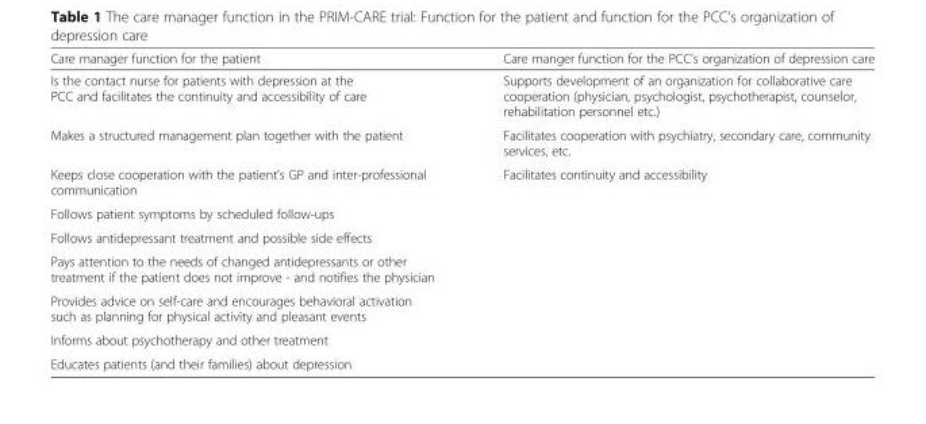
<table><thead><tr><td>Care manager function for the patient</td><td>Care manger function for the PCC’s organization of depression care</td></tr></thead><tbody><tr><td>Is the contact nurse for patients with depression at the PCC and facilitates the continuity and accessibility of care</td><td>Supports development of an organization for collaborative care cooperation (physician, psychologist, psychotherapist, counselor, rehabilitation personnel etc.)</td></tr><tr><td>Makes a structured management plan together with the patient</td><td>Facilitates cooperation with psychiatry, secondary care, community services, etc.</td></tr><tr><td>Keeps close cooperation with the patient’s GP and inter-professional communication</td><td>Facilitates continuity and accessibility</td></tr><tr><td colspan="2">Follows patient symptoms by scheduled follow-ups</td></tr><tr><td colspan="2">Follows antidepressant treatment and possible side effects</td></tr><tr><td colspan="2">Pays attention to the needs of changed antidepressants or other treatment if the patient does not improve - and notifies the physician</td></tr><tr><td colspan="2">Provides advice on self-care and encourages behavioral activation such as planning for physical activity and pleasant events</td></tr><tr><td colspan="2">Informs about psychotherapy and other treatment</td></tr><tr><td>Educates patients (and their families) about depression</td><td></td></tr></tbody></table>